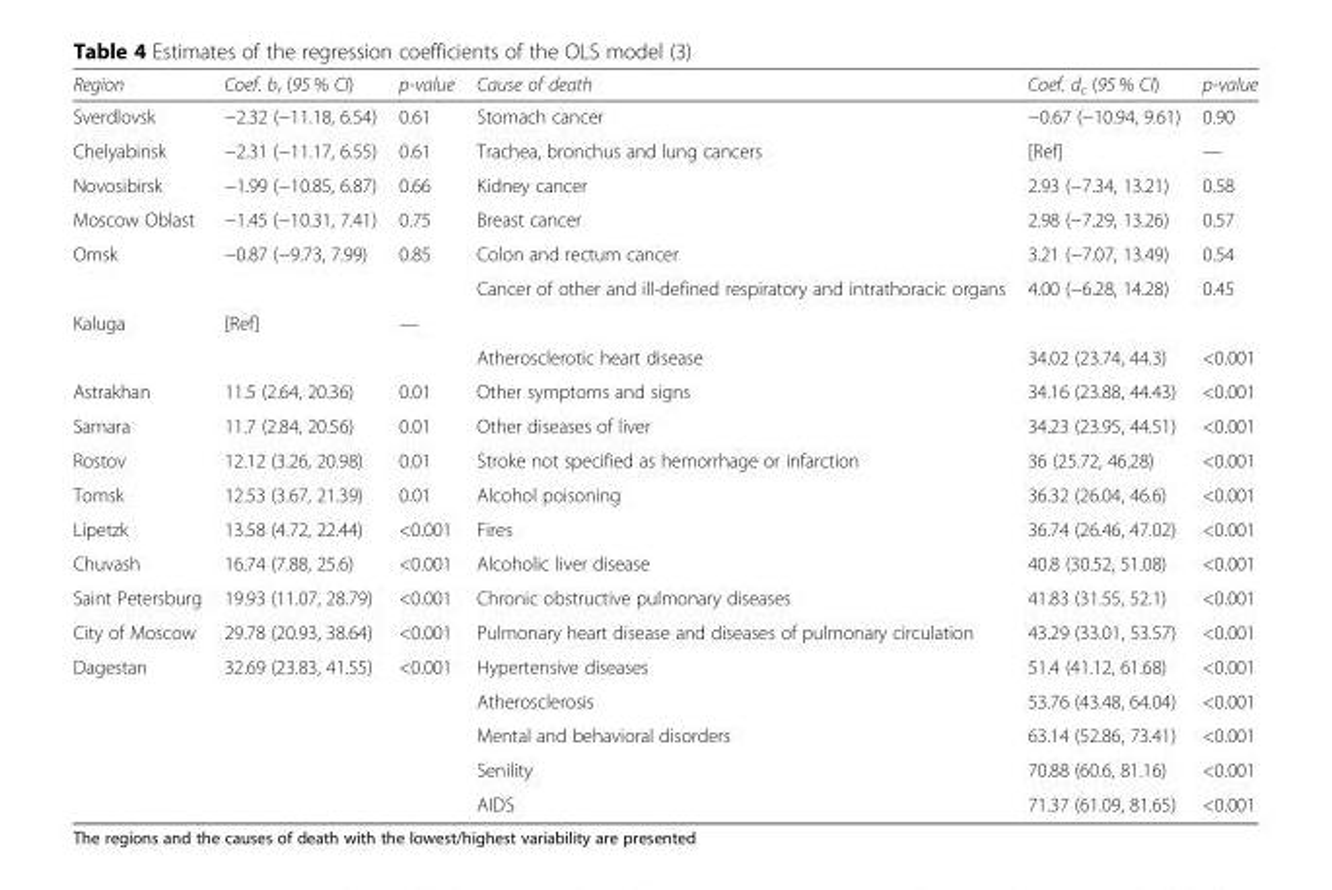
<table><thead><tr><td>Region</td><td>Coef. b<sub>r</sub> (95 % CI)</td><td>p-value</td><td>Cause of death</td><td>Coef. d<sub>c</sub> (95 % CI)</td><td>p-value</td></tr></thead><tbody><tr><td>Sverdlovsk</td><td>−2.32 (−11.18, 6.54)</td><td>0.61</td><td>Stomach cancer</td><td>−0.67 (−10.94, 9.61)</td><td>0.90</td></tr><tr><td>Chelyabinsk</td><td>−2.31 (−11.17, 6.55)</td><td>0.61</td><td>Trachea, bronchus and lung cancers</td><td>[Ref]</td><td>—</td></tr><tr><td>Novosibirsk</td><td>−1.99 (−10.85, 6.87)</td><td>0.66</td><td>Kidney cancer</td><td>2.93 (−7.34, 13.21)</td><td>0.58</td></tr><tr><td>Moscow Oblast</td><td>−1.45 (−10.31, 7.41)</td><td>0.75</td><td>Breast cancer</td><td>2.98 (−7.29, 13.26)</td><td>0.57</td></tr><tr><td>Omsk</td><td>−0.87 (−9.73, 7.99)</td><td>0.85</td><td>Colon and rectum cancer</td><td>3.21 (−7.07, 13.49)</td><td>0.54</td></tr><tr><td></td><td></td><td></td><td>Cancer of other and ill-defined respiratory and intrathoracic organs</td><td>4.00 (−6.28, 14.28)</td><td>0.45</td></tr><tr><td>Kaluga</td><td>[Ref]</td><td>—</td><td></td><td></td><td></td></tr><tr><td></td><td></td><td></td><td>Atherosclerotic heart disease</td><td>34.02 (23.74, 44.3)</td><td>&lt;0.001</td></tr><tr><td>Astrakhan</td><td>11.5 (2.64, 20.36)</td><td>0.01</td><td>Other symptoms and signs</td><td>34.16 (23.88, 44.43)</td><td>&lt;0.001</td></tr><tr><td>Samara</td><td>11.7 (2.84, 20.56)</td><td>0.01</td><td>Other diseases of liver</td><td>34.23 (23.95, 44.51)</td><td>&lt;0.001</td></tr><tr><td>Rostov</td><td>12.12 (3.26, 20.98)</td><td>0.01</td><td>Stroke not specified as hemorrhage or infarction</td><td>36 (25.72, 46.28)</td><td>&lt;0.001</td></tr><tr><td>Tomsk</td><td>12.53 (3.67, 21.39)</td><td>0.01</td><td>Alcohol poisoning</td><td>36.32 (26.04, 46.6)</td><td>&lt;0.001</td></tr><tr><td>Lipetzk</td><td>13.58 (4.72, 22.44)</td><td>&lt;0.001</td><td>Fires</td><td>36.74 (26.46, 47.02)</td><td>&lt;0.001</td></tr><tr><td>Chuvash</td><td>16.74 (7.88, 25.6)</td><td>&lt;0.001</td><td>Alcoholic liver disease</td><td>40.8 (30.52, 51.08)</td><td>&lt;0.001</td></tr><tr><td>Saint Petersburg</td><td>19.93 (11.07, 28.79)</td><td>&lt;0.001</td><td>Chronic obstructive pulmonary diseases</td><td>41.83 (31.55, 52.1)</td><td>&lt;0.001</td></tr><tr><td>City of Moscow</td><td>29.78 (20.93, 38.64)</td><td>&lt;0.001</td><td>Pulmonary heart disease and diseases of pulmonary circulation</td><td>43.29 (33.01, 53.57)</td><td>&lt;0.001</td></tr><tr><td rowspan="5">Dagestan</td><td>32.69 (23.83, 41.55)</td><td>&lt;0.001</td><td>Hypertensive diseases</td><td>51.4 (41.12, 61.68)</td><td>&lt;0.001</td></tr><tr><td></td><td></td><td>Atherosclerosis</td><td>53.76 (43.48, 64.04)</td><td>&lt;0.001</td></tr><tr><td></td><td></td><td>Mental and behavioral disorders</td><td>63.14 (52.86, 73.41)</td><td>&lt;0.001</td></tr><tr><td></td><td></td><td>Senility</td><td>70.88 (60.6, 81.16)</td><td>&lt;0.001</td></tr><tr><td></td><td></td><td>AIDS</td><td>71.37 (61.09, 81.65)</td><td>&lt;0.001</td></tr></tbody></table>